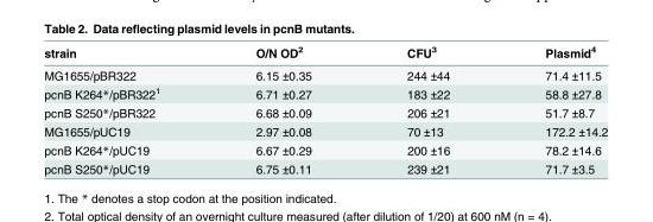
<table><thead><tr><td>strain</td><td>O/N OD<sup>2</sup></td><td>CFU<sup>3</sup></td><td>Plasmid<sup>4</sup></td></tr></thead><tbody><tr><td>MG1655/pBR322</td><td>6.15 ±0.35</td><td>244 ±44</td><td>71.4 ±11.5</td></tr><tr><td>pcnB K264*/pBR322<sup>1</sup></td><td>6.71 ±0.27</td><td>183 ±22</td><td>58.8 ±27.8</td></tr><tr><td>pcnB S250*/pBR322</td><td>6.68 ±0.09</td><td>206 ±21</td><td>51.7 ±8.7</td></tr><tr><td>MG1655/pUC19</td><td>2.97 ±0.08</td><td>70 ±13</td><td>172.2 ±14.2</td></tr><tr><td>pcnB K264*/pUC19</td><td>6.67 ±0.29</td><td>200 ±16</td><td>78.2 ±14.6</td></tr><tr><td>pcnB S250*/pUC19</td><td>6.75 ±0.11</td><td>239 ±21</td><td>71.7 ±3.5</td></tr></tbody></table>